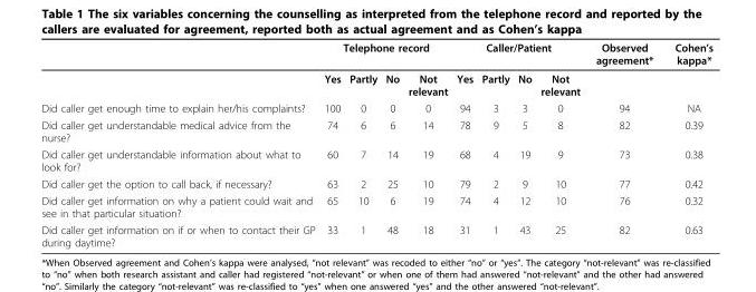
<table><thead><tr><td rowspan="2"></td><td colspan="4">Telephone record</td><td colspan="4">Caller/Patient</td><td rowspan="2">Observed agreement*</td><td rowspan="2">Cohen’s kappa*</td></tr><tr><td>Yes</td><td>Partly</td><td>No</td><td>Not relevant</td><td>Yes</td><td>Partly</td><td>No</td><td>Not relevant</td></tr></thead><tbody><tr><td>Did caller get enough time to explain her/his complaints?</td><td>100</td><td>0</td><td>0</td><td>0</td><td>94</td><td>3</td><td>3</td><td>0</td><td>94</td><td>NA</td></tr><tr><td>Did caller get understandable medical advice from the nurse?</td><td>74</td><td>6</td><td>6</td><td>14</td><td>78</td><td>9</td><td>5</td><td>8</td><td>82</td><td>0.39</td></tr><tr><td>Did caller get understandable information about what to look for?</td><td>60</td><td>7</td><td>14</td><td>19</td><td>68</td><td>4</td><td>19</td><td>9</td><td>73</td><td>0.38</td></tr><tr><td>Did caller get the option to call back, if necessary?</td><td>63</td><td>2</td><td>25</td><td>10</td><td>79</td><td>2</td><td>9</td><td>10</td><td>77</td><td>0.42</td></tr><tr><td>Did caller get information on why a patient could wait and see in that particular situation?</td><td>65</td><td>10</td><td>6</td><td>19</td><td>74</td><td>4</td><td>12</td><td>10</td><td>76</td><td>0.32</td></tr><tr><td>Did caller get information on if or when to contact their GP during daytime?</td><td>33</td><td>1</td><td>48</td><td>18</td><td>31</td><td>1</td><td>43</td><td>25</td><td>82</td><td>0.63</td></tr></tbody></table>